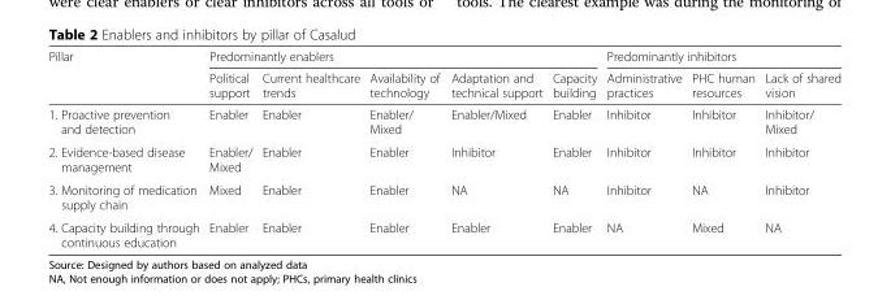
<table><thead><tr><td rowspan="2">Pillar</td><td colspan="5">Predominantly enablers</td><td colspan="3">Predominantly inhibitors</td></tr><tr><td>Political support</td><td>Current healthcare trends</td><td>Availability of technology</td><td>Adaptation and technical support</td><td>Capacity building</td><td>Administrative practices</td><td>PHC human resources</td><td>Lack of shared vision</td></tr></thead><tbody><tr><td>1. Proactive prevention and detection</td><td>Enabler</td><td>Enabler</td><td>Enabler/ Mixed</td><td>Enabler/Mixed</td><td>Enabler</td><td>Inhibitor</td><td>Inhibitor</td><td>Inhibitor/ Mixed</td></tr><tr><td>2. Evidence-based disease management</td><td>Enabler/ Mixed</td><td>Enabler</td><td>Enabler</td><td>Inhibitor</td><td>Enabler</td><td>Inhibitor</td><td>Inhibitor</td><td>Inhibitor</td></tr><tr><td>3. Monitoring of medication supply chain</td><td>Mixed</td><td>Enabler</td><td>Enabler</td><td>NA</td><td>NA</td><td>Inhibitor</td><td>NA</td><td>Inhibitor</td></tr><tr><td>4. Capacity building through continuous education</td><td>Enabler</td><td>Enabler</td><td>Enabler</td><td>Enabler</td><td>Enabler</td><td>NA</td><td>Mixed</td><td>NA</td></tr></tbody></table>